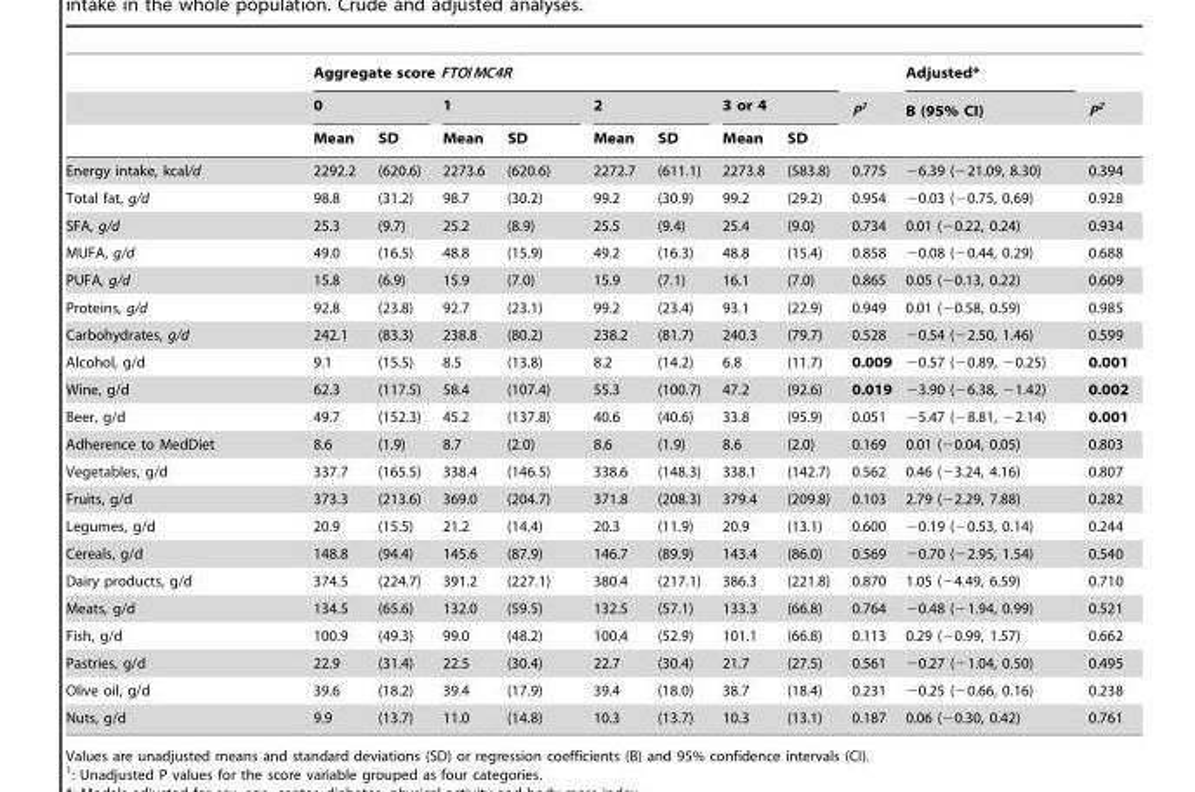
<table><thead><tr><td rowspan="3"></td><td colspan="8">Aggregate score FTO/MC4R</td><td rowspan="3">P1</td><td rowspan="3">Adjusted* B (95% CI)</td><td rowspan="3">P2</td></tr><tr><td colspan="2">0</td><td colspan="2">1</td><td colspan="2">2</td><td colspan="2">3 or 4</td></tr><tr><td>Mean</td><td>SD</td><td>Mean</td><td>SD</td><td>Mean</td><td>SD</td><td>Mean</td><td>SD</td></tr></thead><tbody><tr><td>Energy intake, kcal/d</td><td>2292.2</td><td>(620.6)</td><td>2273.6</td><td>(620.6)</td><td>2272.7</td><td>(611.1)</td><td>2273.8</td><td>(583.8)</td><td>0.775</td><td>−6.39 (−21.09, 8.30)</td><td>0.394</td></tr><tr><td>Total fat, g/d</td><td>98.8</td><td>(31.2)</td><td>98.7</td><td>(30.2)</td><td>99.2</td><td>(30.9)</td><td>99.2</td><td>(29.2)</td><td>0.954</td><td>−0.03 (−0.75, 0.69)</td><td>0.928</td></tr><tr><td>SFA, g/d</td><td>25.3</td><td>(9.7)</td><td>25.2</td><td>(8.9)</td><td>25.5</td><td>(9.4)</td><td>25.4</td><td>(9.0)</td><td>0.734</td><td>0.01 (−0.22, 0.24)</td><td>0.934</td></tr><tr><td>MUFA, g/d</td><td>49.0</td><td>(16.5)</td><td>48.8</td><td>(15.9)</td><td>49.2</td><td>(16.3)</td><td>48.8</td><td>(15.4)</td><td>0.858</td><td>−0.08 (−0.44, 0.29)</td><td>0.688</td></tr><tr><td>PUFA, g/d</td><td>15.8</td><td>(6.9)</td><td>15.9</td><td>(7.0)</td><td>15.9</td><td>(7.1)</td><td>16.1</td><td>(7.0)</td><td>0.865</td><td>0.05 (−0.13, 0.22)</td><td>0.609</td></tr><tr><td>Proteins, g/d</td><td>92.8</td><td>(23.8)</td><td>92.7</td><td>(23.1)</td><td>99.2</td><td>(23.4)</td><td>93.1</td><td>(22.9)</td><td>0.949</td><td>0.01 (−0.58, 0.59)</td><td>0.985</td></tr><tr><td>Carbohydrates, g/d</td><td>242.1</td><td>(83.3)</td><td>238.8</td><td>(80.2)</td><td>238.2</td><td>(81.7)</td><td>240.3</td><td>(79.7)</td><td>0.528</td><td>−0.54 (−2.50, 1.46)</td><td>0.599</td></tr><tr><td>Alcohol, g/d</td><td>9.1</td><td>(15.5)</td><td>8.5</td><td>(13.8)</td><td>8.2</td><td>(14.2)</td><td>6.8</td><td>(11.7)</td><td>0.009</td><td>−0.57 (−0.89, −0.25)</td><td>0.001</td></tr><tr><td>Wine, g/d</td><td>62.3</td><td>(117.5)</td><td>58.4</td><td>(107.4)</td><td>55.3</td><td>(100.7)</td><td>47.2</td><td>(92.6)</td><td>0.019</td><td>−3.90 (−6.38, −1.42)</td><td>0.002</td></tr><tr><td>Beer, g/d</td><td>49.7</td><td>(152.3)</td><td>45.2</td><td>(137.8)</td><td>40.6</td><td>(40.6)</td><td>33.8</td><td>(95.9)</td><td>0.051</td><td>−5.47 (−8.81, −2.14)</td><td>0.001</td></tr><tr><td>Adherence to MedDiet</td><td>8.6</td><td>(1.9)</td><td>8.7</td><td>(2.0)</td><td>8.6</td><td>(1.9)</td><td>8.6</td><td>(2.0)</td><td>0.169</td><td>0.01 (−0.04, 0.05)</td><td>0.803</td></tr><tr><td>Vegetables, g/d</td><td>337.7</td><td>(165.5)</td><td>338.4</td><td>(146.5)</td><td>338.6</td><td>(148.3)</td><td>338.1</td><td>(142.7)</td><td>0.562</td><td>0.46 (−3.24, 4.16)</td><td>0.807</td></tr><tr><td>Fruits, g/d</td><td>373.3</td><td>(213.6)</td><td>369.0</td><td>(204.7)</td><td>371.8</td><td>(208.3)</td><td>379.4</td><td>(209.8)</td><td>0.103</td><td>2.79 (−2.29, 7.88)</td><td>0.282</td></tr><tr><td>Legumes, g/d</td><td>20.9</td><td>(15.5)</td><td>21.2</td><td>(14.4)</td><td>20.3</td><td>(11.9)</td><td>20.9</td><td>(13.1)</td><td>0.600</td><td>−0.19 (−0.53, 0.14)</td><td>0.244</td></tr><tr><td>Cereals, g/d</td><td>148.8</td><td>(94.4)</td><td>145.6</td><td>(87.9)</td><td>146.7</td><td>(89.9)</td><td>143.4</td><td>(86.0)</td><td>0.569</td><td>−0.70 (−2.95, 1.54)</td><td>0.540</td></tr><tr><td>Dairy products, g/d</td><td>374.5</td><td>(224.7)</td><td>391.2</td><td>(227.1)</td><td>380.4</td><td>(217.1)</td><td>386.3</td><td>(221.8)</td><td>0.870</td><td>1.05 (−4.49, 6.59)</td><td>0.710</td></tr><tr><td>Meats, g/d</td><td>134.5</td><td>(65.6)</td><td>132.0</td><td>(59.5)</td><td>132.5</td><td>(57.1)</td><td>133.3</td><td>(66.8)</td><td>0.764</td><td>−0.48 (−1.94, 0.99)</td><td>0.521</td></tr><tr><td>Fish, g/d</td><td>100.9</td><td>(49.3)</td><td>99.0</td><td>(48.2)</td><td>100.4</td><td>(52.9)</td><td>101.1</td><td>(66.8)</td><td>0.113</td><td>0.29 (−0.99, 1.57)</td><td>0.662</td></tr><tr><td>Pastries, g/d</td><td>22.9</td><td>(31.4)</td><td>22.5</td><td>(30.4)</td><td>22.7</td><td>(30.4)</td><td>21.7</td><td>(27.5)</td><td>0.561</td><td>−0.27 (−1.04, 0.50)</td><td>0.495</td></tr><tr><td>Olive oil, g/d</td><td>39.6</td><td>(18.2)</td><td>39.4</td><td>(17.9)</td><td>39.4</td><td>(18.0)</td><td>38.7</td><td>(18.4)</td><td>0.231</td><td>−0.25 (−0.66, 0.16)</td><td>0.238</td></tr><tr><td>Nuts, g/d</td><td>9.9</td><td>(13.7)</td><td>11.0</td><td>(14.8)</td><td>10.3</td><td>(13.7)</td><td>10.3</td><td>(13.1)</td><td>0.187</td><td>0.06 (−0.30, 0.42)</td><td>0.761</td></tr></tbody></table>